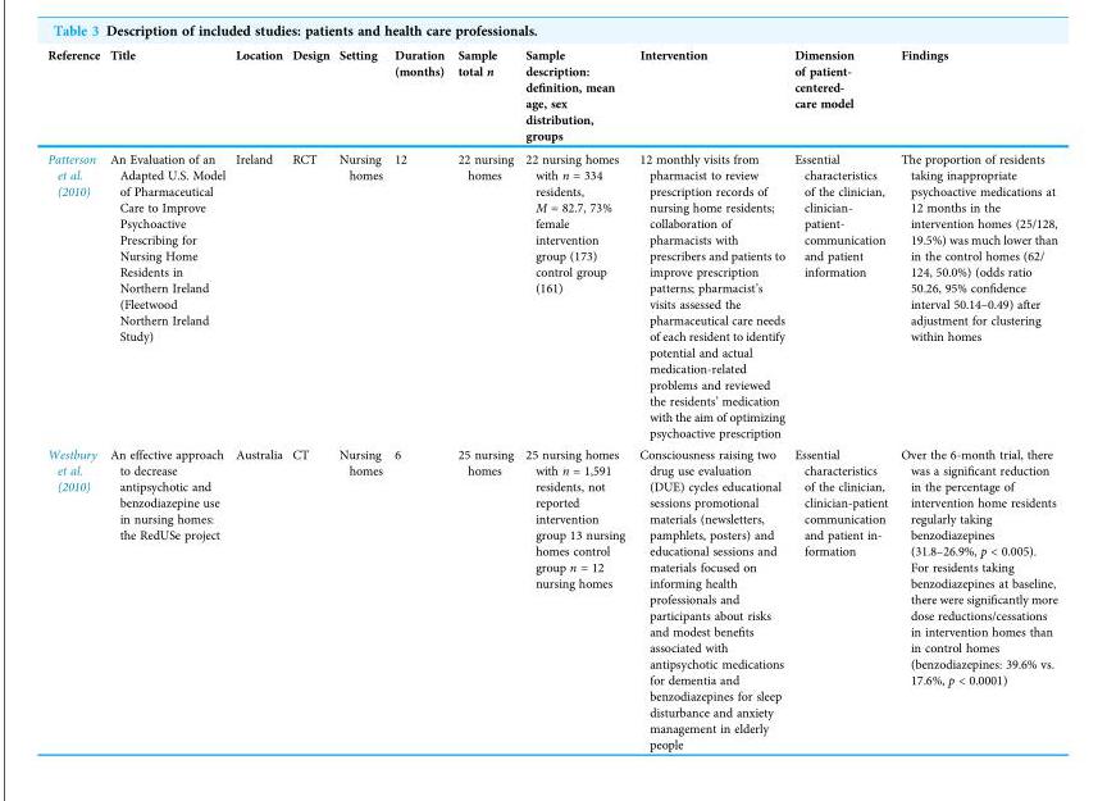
<table><thead><tr><td>Reference</td><td>Title</td><td>Location</td><td>Design</td><td>Setting</td><td>Duration (months)</td><td>Sample total n</td><td>Sample description: definition, mean age, sex distribution, groups</td><td>Intervention</td><td>Dimension of patient- centered- care model</td><td>Findings</td></tr></thead><tbody><tr><td>Patterson et al. (2010)</td><td>An Evaluation of an Adapted U.S. Model of Pharmaceutical Care to Improve Psychoactive Prescribing for Nursing Home Residents in Northern Ireland (Fleetwood Northern Ireland Study)</td><td>Ireland</td><td>RCT</td><td>Nursing homes</td><td>12</td><td>22 nursing homes</td><td>22 nursing homes with n = 334 residents, M = 82.7, 73% female intervention group (173) control group (161)</td><td>12 monthly visits from pharmacist to review prescription records of nursing home residents; collaboration of pharmacists with prescribers and patients to improve prescription patterns; pharmacist’s visits assessed the pharmaceutical care needs of each resident to identify potential and actual medication-related problems and reviewed the residents’ medication with the aim of optimizing psychoactive prescription</td><td>Essential characteristics of the clinician, clinician- patient- communication and patient information</td><td>The proportion of residents taking inappropriate psychoactive medications at 12 months in the intervention homes (25/128, 19.5%) was much lower than in the control homes (62/ 124, 50.0%) (odds ratio 50.26, 95% confidence interval 50.14–0.49) after adjustment for clustering within homes</td></tr><tr><td>Westbury et al. (2010)</td><td>An effective approach to decrease antipsychotic and benzodiazepine use in nursing homes: the RedUSe project</td><td>Australia</td><td>CT</td><td>Nursing homes</td><td>6</td><td>25 nursing homes</td><td>25 nursing homes with n = 1,591 residents, not reported intervention group 13 nursing homes control group n = 12 nursing homes</td><td>Consciousness raising two drug use evaluation (DUE) cycles educational sessions promotional materials (newsletters, pamphlets, posters) and educational sessions and materials focused on informing health professionals and participants about risks and modest benefits associated with antipsychotic medications for dementia and benzodiazepines for sleep disturbance and anxiety management in elderly people</td><td>Essential characteristics of the clinician, clinician-patient communication and patient in- formation</td><td>Over the 6-month trial, there was a significant reduction in the percentage of intervention home residents regularly taking benzodiazepines (31.8–26.9%, p &lt; 0.005). For residents taking benzodiazepines at baseline, there were significantly more dose reductions/cessations in intervention homes than in control homes (benzodiazepines: 39.6% vs. 17.6%, p &lt; 0.0001)</td></tr></tbody></table>